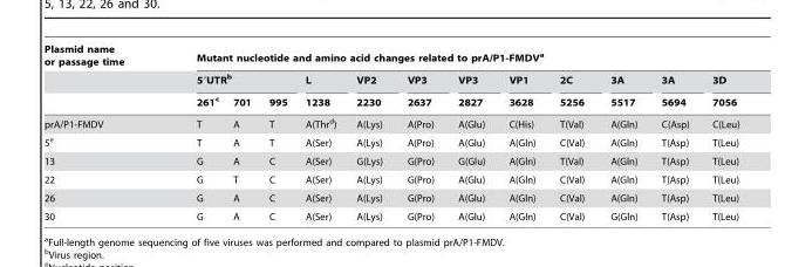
<table><thead><tr><td rowspan="3">Plasmid name or passage time</td><td colspan="12">Mutant nucleotide and amino acid changes related to prA/P1-FMDV<sup>a</sup></td></tr><tr><td colspan="3">5′UTR<sup>b</sup></td><td rowspan="2">L 1238</td><td rowspan="2">VP2 2230</td><td rowspan="2">VP3 2637</td><td rowspan="2">VP3 2827</td><td rowspan="2">VP1 3628</td><td rowspan="2">2C 5256</td><td rowspan="2">3A 5517</td><td rowspan="2">3A 5694</td><td rowspan="2">3D 7056</td></tr><tr><td>261<sup>c</sup></td><td>701</td><td>995</td></tr></thead><tbody><tr><td>prA/P1-FMDV</td><td>T</td><td>A</td><td>T</td><td>A(Thr<sup>d</sup>)</td><td>A(Lys)</td><td>A(Pro)</td><td>A(Glu)</td><td>C(His)</td><td>T(Val)</td><td>A(Gln)</td><td>C(Asp)</td><td>C(Leu)</td></tr><tr><td>5<sup>e</sup></td><td>T</td><td>A</td><td>T</td><td>A(Ser)</td><td>A(Lys)</td><td>A(Pro)</td><td>A(Glu)</td><td>A(Gln)</td><td>C(Val)</td><td>A(Gln)</td><td>T(Asp)</td><td>T(Leu)</td></tr><tr><td>13</td><td>G</td><td>A</td><td>C</td><td>A(Ser)</td><td>G(Lys)</td><td>G(Pro)</td><td>G(Glu)</td><td>A(Gln)</td><td>T(Val)</td><td>A(Gln)</td><td>T(Asp)</td><td>T(Leu)</td></tr><tr><td>22</td><td>G</td><td>T</td><td>C</td><td>A(Ser)</td><td>A(Lys)</td><td>G(Pro)</td><td>A(Glu)</td><td>A(Gln)</td><td>C(Val)</td><td>A(Gln)</td><td>T(Asp)</td><td>T(Leu)</td></tr><tr><td>26</td><td>G</td><td>A</td><td>C</td><td>A(Ser)</td><td>A(Lys)</td><td>G(Pro)</td><td>A(Glu)</td><td>A(Gln)</td><td>C(Val)</td><td>A(Gln)</td><td>T(Asp)</td><td>T(Leu)</td></tr><tr><td>30</td><td>G</td><td>A</td><td>C</td><td>A(Ser)</td><td>A(Lys)</td><td>G(Pro)</td><td>A(Glu)</td><td>A(Gln)</td><td>C(Val)</td><td>G(Gln)</td><td>T(Asp)</td><td>T(Leu)</td></tr></tbody></table>